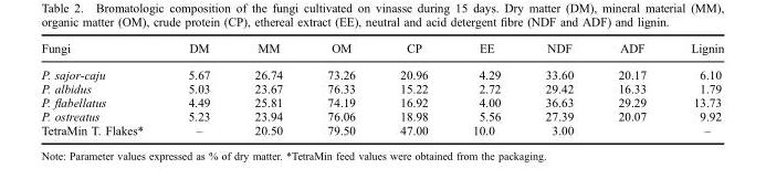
<table><thead><tr><td>Fungi</td><td>DM</td><td>MM</td><td>OM</td><td>CP</td><td>EE</td><td>NDF</td><td>ADF</td><td>Lignin</td></tr></thead><tbody><tr><td>P. sajor-caju</td><td>5.67</td><td>26.74</td><td>73.26</td><td>20.96</td><td>4.29</td><td>33.60</td><td>20.17</td><td>6.10</td></tr><tr><td>P. albidus</td><td>5.03</td><td>23.67</td><td>76.33</td><td>15.22</td><td>2.72</td><td>29.42</td><td>16.33</td><td>1.79</td></tr><tr><td>P. flabellatus</td><td>4.49</td><td>25.81</td><td>74.19</td><td>16.92</td><td>4.00</td><td>36.63</td><td>29.29</td><td>13.73</td></tr><tr><td>P. ostreatus</td><td>5.23</td><td>23.94</td><td>76.06</td><td>18.98</td><td>5.56</td><td>27.39</td><td>20.07</td><td>9.92</td></tr><tr><td>TetraMin T. Flakes*</td><td>–</td><td>20.50</td><td>79.50</td><td>47.00</td><td>10.0</td><td colspan="2">3.00</td><td>–</td></tr></tbody></table>